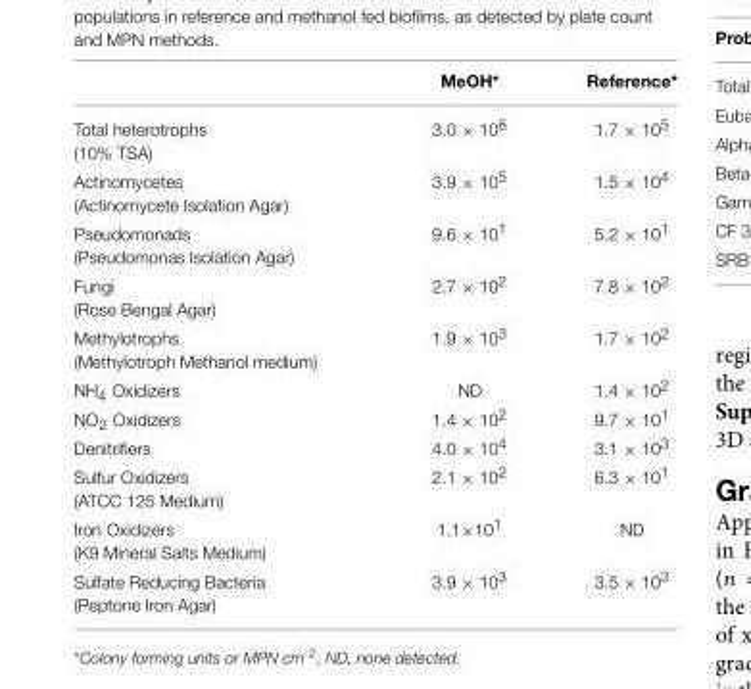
<table><thead><tr><td></td><td>MeOH*</td><td>Reference*</td></tr></thead><tbody><tr><td>Total heterotrophs (10% TSA)</td><td>3.0 × 10<sup>6</sup></td><td>1.7 × 10<sup>5</sup></td></tr><tr><td>Actinomycetes (Actinomycete Isolation Agar)</td><td>3.9 × 10<sup>5</sup></td><td>1.5 × 10<sup>4</sup></td></tr><tr><td>Pseudomonads (Pseudomonas Isolation Agar)</td><td>9.6 × 10<sup>1</sup></td><td>5.2 × 10<sup>1</sup></td></tr><tr><td>Fungi (Rose Bengal Agar)</td><td>2.7 × 10<sup>2</sup></td><td>7.8 × 10<sup>2</sup></td></tr><tr><td>Methylotrophs (Methylotroph Methanol medium)</td><td>1.9 × 10<sup>3</sup></td><td>1.7 × 10<sup>2</sup></td></tr><tr><td>NH<sub>4</sub> Oxidizers</td><td>ND</td><td>1.4 × 10<sup>2</sup></td></tr><tr><td>NO<sub>2</sub> Oxidizers</td><td>1.4 × 10<sup>2</sup></td><td>9.7 × 10<sup>1</sup></td></tr><tr><td>Denitrifiers</td><td>4.0 × 10<sup>4</sup></td><td>3.1 × 10<sup>3</sup></td></tr><tr><td>Sulfur Oxidizers (ATCC 125 Medium)</td><td>2.1 × 10<sup>2</sup></td><td>6.3 × 10<sup>1</sup></td></tr><tr><td>Iron Oxidizers (K9 Mineral Salts Medium)</td><td>1.1×10<sup>1</sup></td><td>ND</td></tr><tr><td>Sulfate Reducing Bacteria (Peptone Iron Agar)</td><td>3.9 × 10<sup>3</sup></td><td>3.5 × 10<sup>3</sup></td></tr></tbody></table>